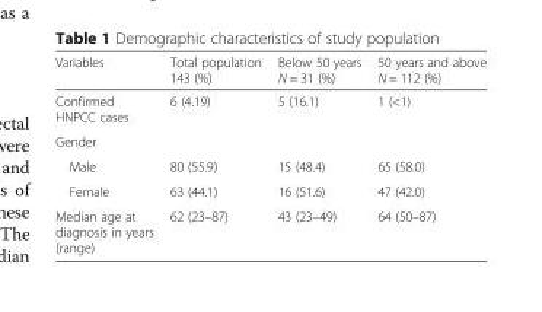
<table><thead><tr><td>Variables</td><td>Total population 143 (%)</td><td>Below 50 years N = 31 (%)</td><td>50 years and above N = 112 (%)</td></tr></thead><tbody><tr><td>Confirmed HNPCC cases</td><td>6 (4.19)</td><td>5 (16.1)</td><td>1 (&lt;1)</td></tr><tr><td colspan="4">Gender</td></tr><tr><td>Male</td><td>80 (55.9)</td><td>15 (48.4)</td><td>65 (58.0)</td></tr><tr><td>Female</td><td>63 (44.1)</td><td>16 (51.6)</td><td>47 (42.0)</td></tr><tr><td>Median age at diagnosis in years (range)</td><td>62 (23–87)</td><td>43 (23–49)</td><td>64 (50–87)</td></tr></tbody></table>